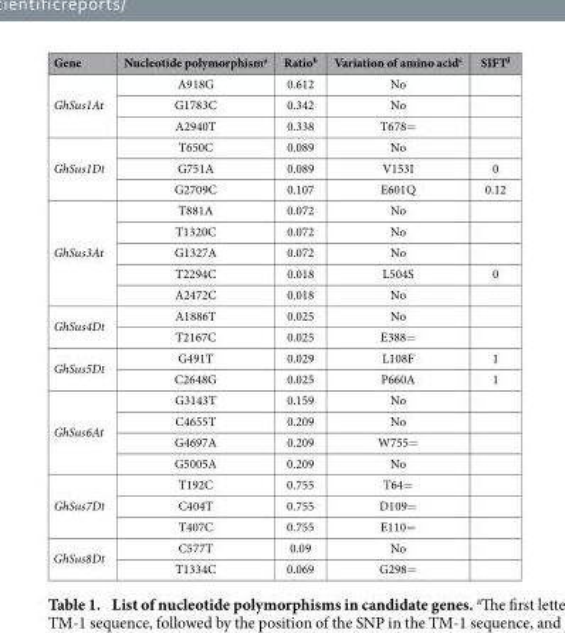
<table><thead><tr><td>Gene</td><td>Nucleotide polymorphism<sup>a</sup></td><td>Ratio<sup>b</sup></td><td>Variation of amino acid<sup>c</sup></td><td>SIFT<sup>d</sup></td></tr></thead><tbody><tr><td rowspan="3">GhSus1At</td><td>A918G</td><td>0.612</td><td>No</td><td></td></tr><tr><td>G1783C</td><td>0.342</td><td>No</td><td></td></tr><tr><td>A2940T</td><td>0.338</td><td>T678=</td><td></td></tr><tr><td rowspan="3">GhSus1Dt</td><td>T650C</td><td>0.089</td><td>No</td><td></td></tr><tr><td>G751A</td><td>0.089</td><td>V153I</td><td>0</td></tr><tr><td>G2709C</td><td>0.107</td><td>E601Q</td><td>0.12</td></tr><tr><td rowspan="5">GhSus3At</td><td>T881A</td><td>0.072</td><td>No</td><td></td></tr><tr><td>T1320C</td><td>0.072</td><td>No</td><td></td></tr><tr><td>G1327A</td><td>0.072</td><td>No</td><td></td></tr><tr><td>T2294C</td><td>0.018</td><td>L504S</td><td>0</td></tr><tr><td>A2472C</td><td>0.018</td><td>No</td><td></td></tr><tr><td rowspan="2">GhSus4Dt</td><td>A1886T</td><td>0.025</td><td>No</td><td></td></tr><tr><td>T2167C</td><td>0.025</td><td>E388=</td><td></td></tr><tr><td rowspan="2">GhSus5Dt</td><td>G491T</td><td>0.029</td><td>L108F</td><td>1</td></tr><tr><td>C2648G</td><td>0.025</td><td>P660A</td><td>1</td></tr><tr><td rowspan="4">GhSus6At</td><td>G3143T</td><td>0.159</td><td>No</td><td></td></tr><tr><td>C4655T</td><td>0.209</td><td>No</td><td></td></tr><tr><td>G4697A</td><td>0.209</td><td>W755=</td><td></td></tr><tr><td>G5005A</td><td>0.209</td><td>No</td><td></td></tr><tr><td rowspan="3">GhSus7Dt</td><td>T192C</td><td>0.755</td><td>T64=</td><td></td></tr><tr><td>C404T</td><td>0.755</td><td>D109=</td><td></td></tr><tr><td>T407C</td><td>0.755</td><td>E110=</td><td></td></tr><tr><td rowspan="2">GhSus8Dt</td><td>C577T</td><td>0.09</td><td>No</td><td></td></tr><tr><td>T1334C</td><td>0.069</td><td>G298=</td><td></td></tr></tbody></table>